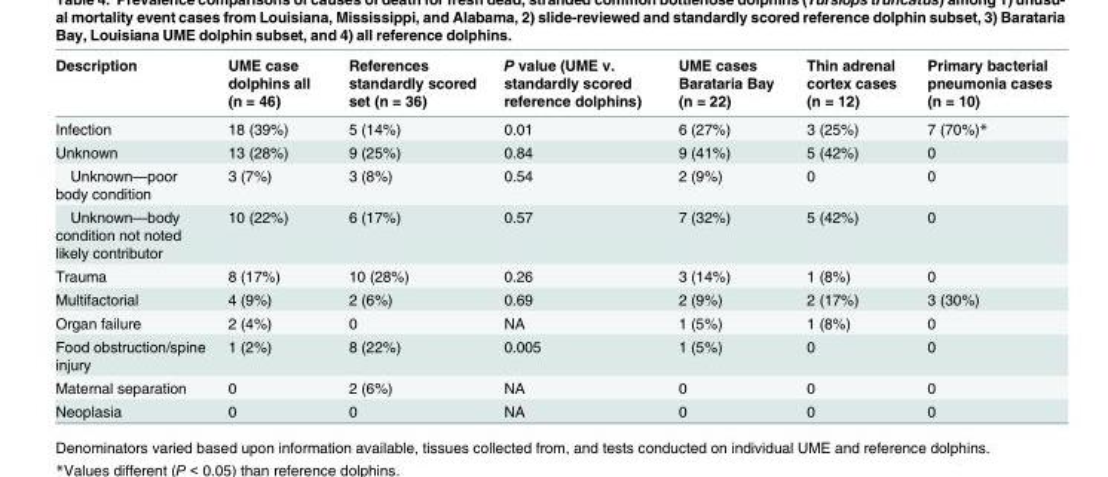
<table><thead><tr><td>Description</td><td>UME case dolphins all (n = 46)</td><td>References standardly scored set (n = 36)</td><td>P value (UME v. standardly scored reference dolphins)</td><td>UME cases Barataria Bay (n = 22)</td><td>Thin adrenal cortex cases (n = 12)</td><td>Primary bacterial pneumonia cases (n = 10)</td></tr></thead><tbody><tr><td>Infection</td><td>18 (39%)</td><td>5 (14%)</td><td>0.01</td><td>6 (27%)</td><td>3 (25%)</td><td>7 (70%)*</td></tr><tr><td>Unknown</td><td>13 (28%)</td><td>9 (25%)</td><td>0.84</td><td>9 (41%)</td><td>5 (42%)</td><td>0</td></tr><tr><td>Unknown—poor body condition</td><td>3 (7%)</td><td>3 (8%)</td><td>0.54</td><td>2 (9%)</td><td>0</td><td>0</td></tr><tr><td>Unknown—body condition not noted likely contributor</td><td>10 (22%)</td><td>6 (17%)</td><td>0.57</td><td>7 (32%)</td><td>5 (42%)</td><td>0</td></tr><tr><td>Trauma</td><td>8 (17%)</td><td>10 (28%)</td><td>0.26</td><td>3 (14%)</td><td>1 (8%)</td><td>0</td></tr><tr><td>Multifactorial</td><td>4 (9%)</td><td>2 (6%)</td><td>0.69</td><td>2 (9%)</td><td>2 (17%)</td><td>3 (30%)</td></tr><tr><td>Organ failure</td><td>2 (4%)</td><td>0</td><td>NA</td><td>1 (5%)</td><td>1 (8%)</td><td>0</td></tr><tr><td>Food obstruction/spine injury</td><td>1 (2%)</td><td>8 (22%)</td><td>0.005</td><td>1 (5%)</td><td>0</td><td>0</td></tr><tr><td>Maternal separation</td><td>0</td><td>2 (6%)</td><td>NA</td><td>0</td><td>0</td><td>0</td></tr><tr><td>Neoplasia</td><td>0</td><td>0</td><td>NA</td><td>0</td><td>0</td><td>0</td></tr></tbody></table>